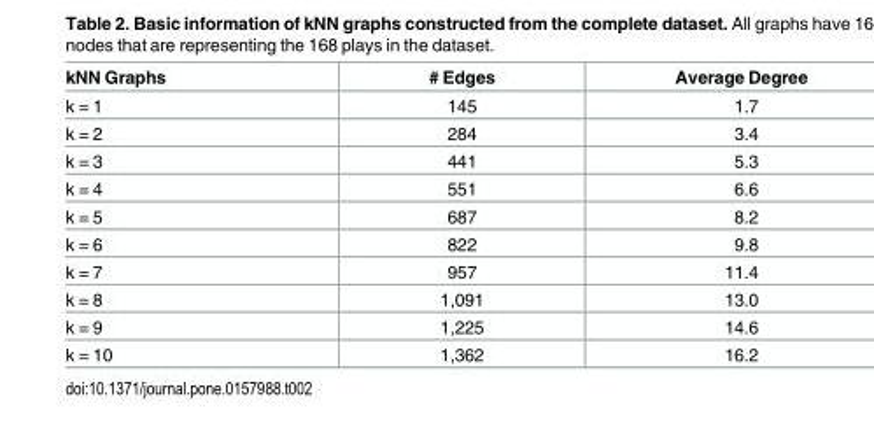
<table><thead><tr><td>kNN Graphs</td><td># Edges</td><td>Average Degree</td></tr></thead><tbody><tr><td>k = 1</td><td>145</td><td>1.7</td></tr><tr><td>k = 2</td><td>284</td><td>3.4</td></tr><tr><td>k = 3</td><td>441</td><td>5.3</td></tr><tr><td>k = 4</td><td>551</td><td>6.6</td></tr><tr><td>k = 5</td><td>687</td><td>8.2</td></tr><tr><td>k = 6</td><td>822</td><td>9.8</td></tr><tr><td>k = 7</td><td>957</td><td>11.4</td></tr><tr><td>k = 8</td><td>1,091</td><td>13.0</td></tr><tr><td>k = 9</td><td>1,225</td><td>14.6</td></tr><tr><td>k = 10</td><td>1,362</td><td>16.2</td></tr></tbody></table>